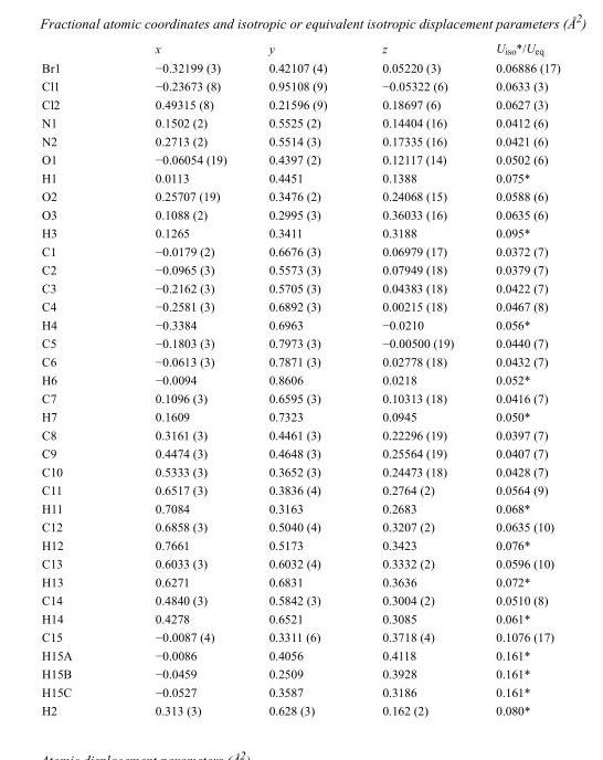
<table><thead><tr><td></td><td>x</td><td>y</td><td>z</td><td>U<sub>iso</sub>*/U<sub>eq</sub></td></tr></thead><tbody><tr><td>Br1</td><td>−0.32199 (3)</td><td>0.42107 (4)</td><td>0.05220 (3)</td><td>0.06886 (17)</td></tr><tr><td>Cl1</td><td>−0.23673 (8)</td><td>0.95108 (9)</td><td>−0.05322 (6)</td><td>0.0633 (3)</td></tr><tr><td>Cl2</td><td>0.49315 (8)</td><td>0.21596 (9)</td><td>0.18697 (6)</td><td>0.0627 (3)</td></tr><tr><td>N1</td><td>0.1502 (2)</td><td>0.5525 (2)</td><td>0.14404 (16)</td><td>0.0412 (6)</td></tr><tr><td>N2</td><td>0.2713 (2)</td><td>0.5514 (3)</td><td>0.17335 (16)</td><td>0.0421 (6)</td></tr><tr><td>O1</td><td>−0.06054 (19)</td><td>0.4397 (2)</td><td>0.12117 (14)</td><td>0.0502 (6)</td></tr><tr><td>H1</td><td>0.0113</td><td>0.4451</td><td>0.1388</td><td>0.075*</td></tr><tr><td>O2</td><td>0.25707 (19)</td><td>0.3476 (2)</td><td>0.24068 (15)</td><td>0.0588 (6)</td></tr><tr><td>O3</td><td>0.1088 (2)</td><td>0.2995 (3)</td><td>0.36033 (16)</td><td>0.0635 (6)</td></tr><tr><td>H3</td><td>0.1265</td><td>0.3411</td><td>0.3188</td><td>0.095*</td></tr><tr><td>C1</td><td>−0.0179 (2)</td><td>0.6676 (3)</td><td>0.06979 (17)</td><td>0.0372 (7)</td></tr><tr><td>C2</td><td>−0.0965 (3)</td><td>0.5573 (3)</td><td>0.07949 (18)</td><td>0.0379 (7)</td></tr><tr><td>C3</td><td>−0.2162 (3)</td><td>0.5705 (3)</td><td>0.04383 (18)</td><td>0.0422 (7)</td></tr><tr><td>C4</td><td>−0.2581 (3)</td><td>0.6892 (3)</td><td>0.00215 (18)</td><td>0.0467 (8)</td></tr><tr><td>H4</td><td>−0.3384</td><td>0.6963</td><td>−0.0210</td><td>0.056*</td></tr><tr><td>C5</td><td>−0.1803 (3)</td><td>0.7973 (3)</td><td>−0.00500 (19)</td><td>0.0440 (7)</td></tr><tr><td>C6</td><td>−0.0613 (3)</td><td>0.7871 (3)</td><td>0.02778 (18)</td><td>0.0432 (7)</td></tr><tr><td>H6</td><td>−0.0094</td><td>0.8606</td><td>0.0218</td><td>0.052*</td></tr><tr><td>C7</td><td>0.1096 (3)</td><td>0.6595 (3)</td><td>0.10313 (18)</td><td>0.0416 (7)</td></tr><tr><td>H7</td><td>0.1609</td><td>0.7323</td><td>0.0945</td><td>0.050*</td></tr><tr><td>C8</td><td>0.3161 (3)</td><td>0.4461 (3)</td><td>0.22296 (19)</td><td>0.0397 (7)</td></tr><tr><td>C9</td><td>0.4474 (3)</td><td>0.4648 (3)</td><td>0.25564 (19)</td><td>0.0407 (7)</td></tr><tr><td>C10</td><td>0.5333 (3)</td><td>0.3652 (3)</td><td>0.24473 (18)</td><td>0.0428 (7)</td></tr><tr><td>C11</td><td>0.6517 (3)</td><td>0.3836 (4)</td><td>0.2764 (2)</td><td>0.0564 (9)</td></tr><tr><td>H11</td><td>0.7084</td><td>0.3163</td><td>0.2683</td><td>0.068*</td></tr><tr><td>C12</td><td>0.6858 (3)</td><td>0.5040 (4)</td><td>0.3207 (2)</td><td>0.0635 (10)</td></tr><tr><td>H12</td><td>0.7661</td><td>0.5173</td><td>0.3423</td><td>0.076*</td></tr><tr><td>C13</td><td>0.6033 (3)</td><td>0.6032 (4)</td><td>0.3332 (2)</td><td>0.0596 (10)</td></tr><tr><td>H13</td><td>0.6271</td><td>0.6831</td><td>0.3636</td><td>0.072*</td></tr><tr><td>C14</td><td>0.4840 (3)</td><td>0.5842 (3)</td><td>0.3004 (2)</td><td>0.0510 (8)</td></tr><tr><td>H14</td><td>0.4278</td><td>0.6521</td><td>0.3085</td><td>0.061*</td></tr><tr><td>C15</td><td>−0.0087 (4)</td><td>0.3311 (6)</td><td>0.3718 (4)</td><td>0.1076 (17)</td></tr><tr><td>H15A</td><td>−0.0086</td><td>0.4056</td><td>0.4118</td><td>0.161*</td></tr><tr><td>H15B</td><td>−0.0459</td><td>0.2509</td><td>0.3928</td><td>0.161*</td></tr><tr><td>H15C</td><td>−0.0527</td><td>0.3587</td><td>0.3186</td><td>0.161*</td></tr><tr><td>H2</td><td>0.313 (3)</td><td>0.628 (3)</td><td>0.162 (2)</td><td>0.080*</td></tr></tbody></table>